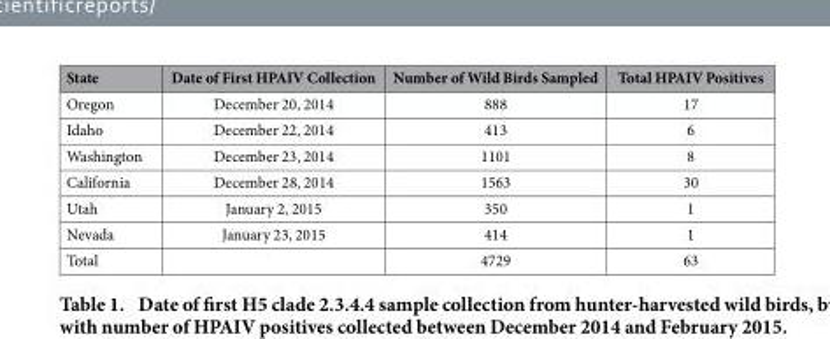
<table><thead><tr><td>State</td><td>Date of First HPAIV Collection</td><td>Number of Wild Birds Sampled</td><td>Total HPAIV Positives</td></tr></thead><tbody><tr><td>Oregon</td><td>December 20, 2014</td><td>888</td><td>17</td></tr><tr><td>Idaho</td><td>December 22, 2014</td><td>413</td><td>6</td></tr><tr><td>Washington</td><td>December 23, 2014</td><td>1101</td><td>8</td></tr><tr><td>California</td><td>December 28, 2014</td><td>1563</td><td>30</td></tr><tr><td>Utah</td><td>January 2, 2015</td><td>350</td><td>1</td></tr><tr><td>Nevada</td><td>January 23, 2015</td><td>414</td><td>1</td></tr><tr><td>Total</td><td></td><td>4729</td><td>63</td></tr></tbody></table>